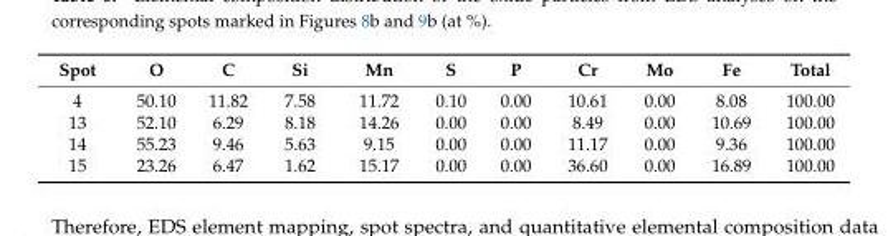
<table><thead><tr><td>Spot</td><td>O</td><td>C</td><td>Si</td><td>Mn</td><td>S</td><td>P</td><td>Cr</td><td>Mo</td><td>Fe</td><td>Total</td></tr></thead><tbody><tr><td>4</td><td>50.10</td><td>11.82</td><td>7.58</td><td>11.72</td><td>0.10</td><td>0.00</td><td>10.61</td><td>0.00</td><td>8.08</td><td>100.00</td></tr><tr><td>13</td><td>52.10</td><td>6.29</td><td>8.18</td><td>14.26</td><td>0.00</td><td>0.00</td><td>8.49</td><td>0.00</td><td>10.69</td><td>100.00</td></tr><tr><td>14</td><td>55.23</td><td>9.46</td><td>5.63</td><td>9.15</td><td>0.00</td><td>0.00</td><td>11.17</td><td>0.00</td><td>9.36</td><td>100.00</td></tr><tr><td>15</td><td>23.26</td><td>6.47</td><td>1.62</td><td>15.17</td><td>0.00</td><td>0.00</td><td>36.60</td><td>0.00</td><td>16.89</td><td>100.00</td></tr></tbody></table>